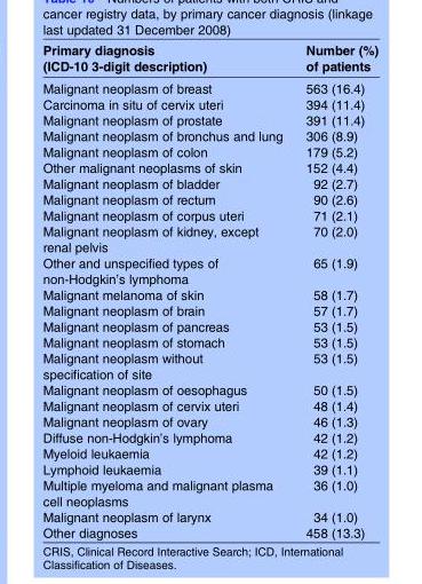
<table><thead><tr><td>Primary diagnosis (ICD-10 3-digit description)</td><td>Number (%) of patients</td></tr></thead><tbody><tr><td>Malignant neoplasm of breast</td><td>563 (16.4)</td></tr><tr><td>Carcinoma in situ of cervix uteri</td><td>394 (11.4)</td></tr><tr><td>Malignant neoplasm of prostate</td><td>391 (11.4)</td></tr><tr><td>Malignant neoplasm of bronchus and lung</td><td>306 (8.9)</td></tr><tr><td>Malignant neoplasm of colon</td><td>179 (5.2)</td></tr><tr><td>Other malignant neoplasms of skin</td><td>152 (4.4)</td></tr><tr><td>Malignant neoplasm of bladder</td><td>92 (2.7)</td></tr><tr><td>Malignant neoplasm of rectum</td><td>90 (2.6)</td></tr><tr><td>Malignant neoplasm of corpus uteri</td><td>71 (2.1)</td></tr><tr><td>Malignant neoplasm of kidney, except renal pelvis</td><td>70 (2.0)</td></tr><tr><td>Other and unspecified types of non-Hodgkin’s lymphoma</td><td>65 (1.9)</td></tr><tr><td>Malignant melanoma of skin</td><td>58 (1.7)</td></tr><tr><td>Malignant neoplasm of brain</td><td>57 (1.7)</td></tr><tr><td>Malignant neoplasm of pancreas</td><td>53 (1.5)</td></tr><tr><td>Malignant neoplasm of stomach</td><td>53 (1.5)</td></tr><tr><td>Malignant neoplasm without specification of site</td><td>53 (1.5)</td></tr><tr><td>Malignant neoplasm of oesophagus</td><td>50 (1.5)</td></tr><tr><td>Malignant neoplasm of cervix uteri</td><td>48 (1.4)</td></tr><tr><td>Malignant neoplasm of ovary</td><td>46 (1.3)</td></tr><tr><td>Diffuse non-Hodgkin’s lymphoma</td><td>42 (1.2)</td></tr><tr><td>Myeloid leukaemia</td><td>42 (1.2)</td></tr><tr><td>Lymphoid leukaemia</td><td>39 (1.1)</td></tr><tr><td>Multiple myeloma and malignant plasma cell neoplasms</td><td>36 (1.0)</td></tr><tr><td>Malignant neoplasm of larynx</td><td>34 (1.0)</td></tr><tr><td>Other diagnoses</td><td>458 (13.3)</td></tr></tbody></table>